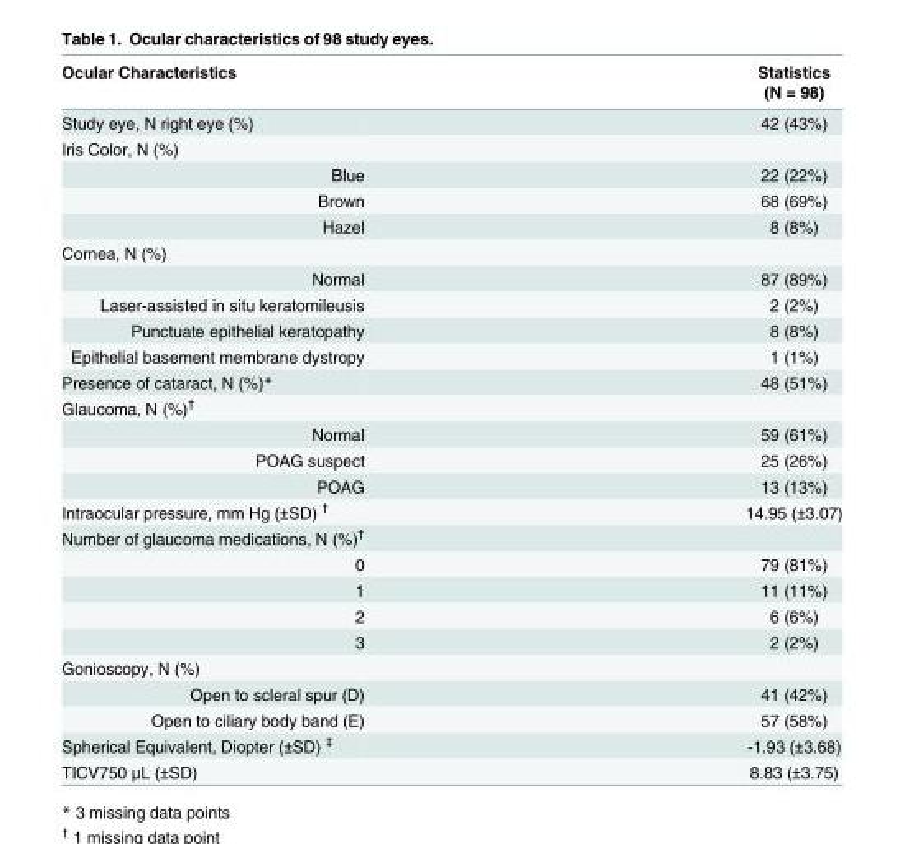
<table><thead><tr><td rowspan="2">Ocular Characteristics</td><td rowspan="2">Statistics (N = 98)</td></tr><tr></tr></thead><tbody><tr><td>Study eye, N right eye (%)</td><td>42 (43%)</td></tr><tr><td colspan="2">Iris Color, N (%)</td></tr><tr><td>Blue</td><td>22 (22%)</td></tr><tr><td>Brown</td><td>68 (69%)</td></tr><tr><td>Hazel</td><td>8 (8%)</td></tr><tr><td colspan="2">Cornea, N (%)</td></tr><tr><td>Normal</td><td>87 (89%)</td></tr><tr><td>Laser-assisted in situ keratomileusis</td><td>2 (2%)</td></tr><tr><td>Punctuate epithelial keratopathy</td><td>8 (8%)</td></tr><tr><td>Epithelial basement membrane dystropy</td><td>1 (1%)</td></tr><tr><td>Presence of cataract, N (%)*</td><td>48 (51%)</td></tr><tr><td colspan="2">Glaucoma, N (%)<sup>†</sup></td></tr><tr><td>Normal</td><td>59 (61%)</td></tr><tr><td>POAG suspect</td><td>25 (26%)</td></tr><tr><td>POAG</td><td>13 (13%)</td></tr><tr><td>Intraocular pressure, mm Hg (±SD) <sup>†</sup></td><td>14.95 (±3.07)</td></tr><tr><td colspan="2">Number of glaucoma medications, N (%)<sup>†</sup></td></tr><tr><td>0</td><td>79 (81%)</td></tr><tr><td>1</td><td>11 (11%)</td></tr><tr><td>2</td><td>6 (6%)</td></tr><tr><td>3</td><td>2 (2%)</td></tr><tr><td colspan="2">Gonioscopy, N (%)</td></tr><tr><td>Open to scleral spur (D)</td><td>41 (42%)</td></tr><tr><td>Open to ciliary body band (E)</td><td>57 (58%)</td></tr><tr><td>Spherical Equivalent, Diopter (±SD) <sup>‡</sup></td><td>-1.93 (±3.68)</td></tr><tr><td>TICV750 μL (±SD)</td><td>8.83 (±3.75)</td></tr></tbody></table>